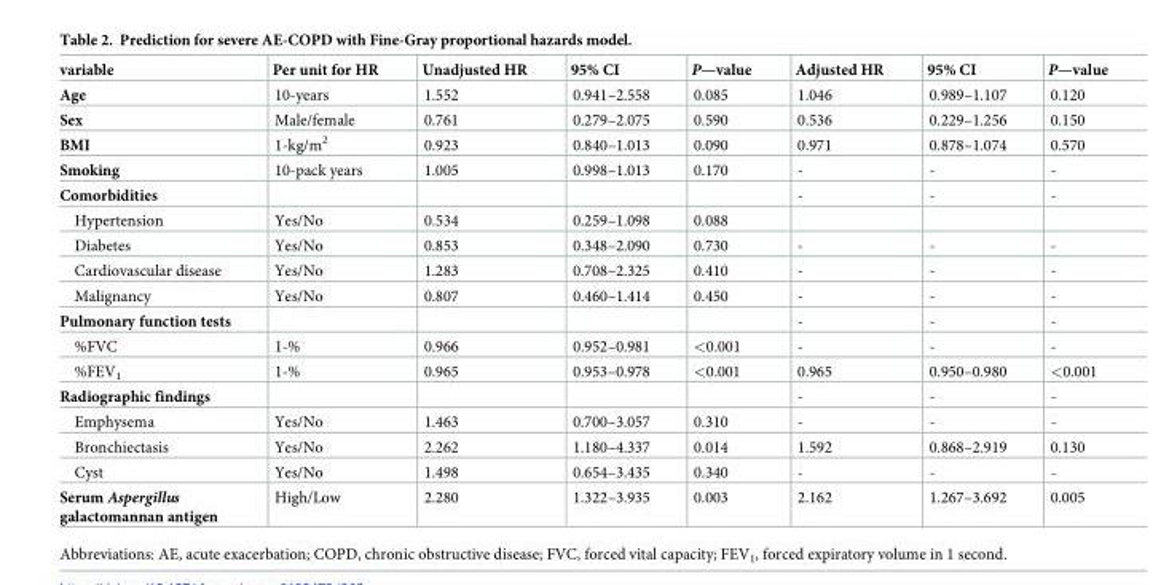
<table><thead><tr><td>variable</td><td>Per unit for HR</td><td>Unadjusted HR</td><td>95% CI</td><td>P—value</td><td>Adjusted HR</td><td>95% CI</td><td>P—value</td></tr></thead><tbody><tr><td>Age</td><td>10-years</td><td>1.552</td><td>0.941–2.558</td><td>0.085</td><td>1.046</td><td>0.989–1.107</td><td>0.120</td></tr><tr><td>Sex</td><td>Male/female</td><td>0.761</td><td>0.279–2.075</td><td>0.590</td><td>0.536</td><td>0.229–1.256</td><td>0.150</td></tr><tr><td>BMI</td><td>1-kg/m<sup>2</sup></td><td>0.923</td><td>0.840–1.013</td><td>0.090</td><td>0.971</td><td>0.878–1.074</td><td>0.570</td></tr><tr><td>Smoking</td><td>10-pack years</td><td>1.005</td><td>0.998–1.013</td><td>0.170</td><td>-</td><td>-</td><td>-</td></tr><tr><td>Comorbidities</td><td></td><td></td><td></td><td></td><td>-</td><td>-</td><td>-</td></tr><tr><td>Hypertension</td><td>Yes/No</td><td>0.534</td><td>0.259–1.098</td><td>0.088</td><td></td><td></td><td></td></tr><tr><td>Diabetes</td><td>Yes/No</td><td>0.853</td><td>0.348–2.090</td><td>0.730</td><td>-</td><td>-</td><td>-</td></tr><tr><td>Cardiovascular disease</td><td>Yes/No</td><td>1.283</td><td>0.708–2.325</td><td>0.410</td><td>-</td><td>-</td><td>-</td></tr><tr><td>Malignancy</td><td>Yes/No</td><td>0.807</td><td>0.460–1.414</td><td>0.450</td><td>-</td><td>-</td><td>-</td></tr><tr><td>Pulmonary function tests</td><td></td><td></td><td></td><td></td><td>-</td><td>-</td><td>-</td></tr><tr><td>%FVC</td><td>1-%</td><td>0.966</td><td>0.952–0.981</td><td>&lt;0.001</td><td>-</td><td>-</td><td>-</td></tr><tr><td>%FEV<sub>1</sub></td><td>1-%</td><td>0.965</td><td>0.953–0.978</td><td>&lt;0.001</td><td>0.965</td><td>0.950–0.980</td><td>&lt;0.001</td></tr><tr><td>Radiographic findings</td><td></td><td></td><td></td><td></td><td>-</td><td>-</td><td>-</td></tr><tr><td>Emphysema</td><td>Yes/No</td><td>1.463</td><td>0.700–3.057</td><td>0.310</td><td>-</td><td>-</td><td>-</td></tr><tr><td>Bronchiectasis</td><td>Yes/No</td><td>2.262</td><td>1.180–4.337</td><td>0.014</td><td>1.592</td><td>0.868–2.919</td><td>0.130</td></tr><tr><td>Cyst</td><td>Yes/No</td><td>1.498</td><td>0.654–3.435</td><td>0.340</td><td>-</td><td>-</td><td>-</td></tr><tr><td>Serum Aspergillus galactomannan antigen</td><td>High/Low</td><td>2.280</td><td>1.322–3.935</td><td>0.003</td><td>2.162</td><td>1.267–3.692</td><td>0.005</td></tr></tbody></table>